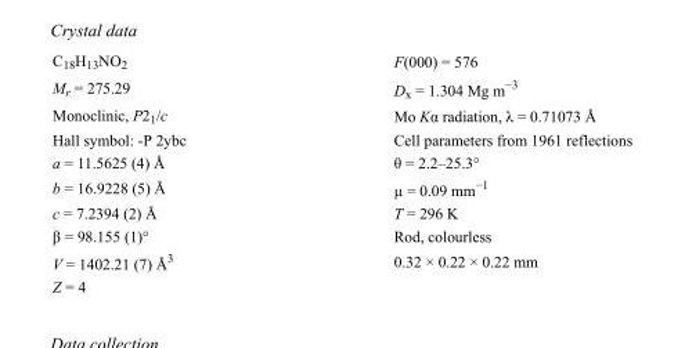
<table><tbody><tr><td>C<sub>18</sub>H<sub>13</sub>NO<sub>2</sub></td><td>F(000) = 576</td></tr><tr><td>M<sub>r</sub> = 275.29</td><td>D<sub>x</sub> = 1.304 Mg m<sup>−3</sup></td></tr><tr><td>Monoclinic, P2<sub>1</sub>/c</td><td>Mo Kα radiation, λ = 0.71073 Å</td></tr><tr><td>Hall symbol: -P 2ybc</td><td>Cell parameters from 1961 reflections</td></tr><tr><td>a = 11.5625 (4) Å</td><td>θ = 2.2–25.3°</td></tr><tr><td>b = 16.9228 (5) Å</td><td>µ = 0.09 mm<sup>−1</sup></td></tr><tr><td>c = 7.2394 (2) Å</td><td>T = 296 K</td></tr><tr><td>β = 98.155 (1)°</td><td>Rod, colourless</td></tr><tr><td>V = 1402.21 (7) Å<sup>3</sup></td><td>0.32 × 0.22 × 0.22 mm</td></tr><tr><td>Z = 4</td><td></td></tr></tbody></table>